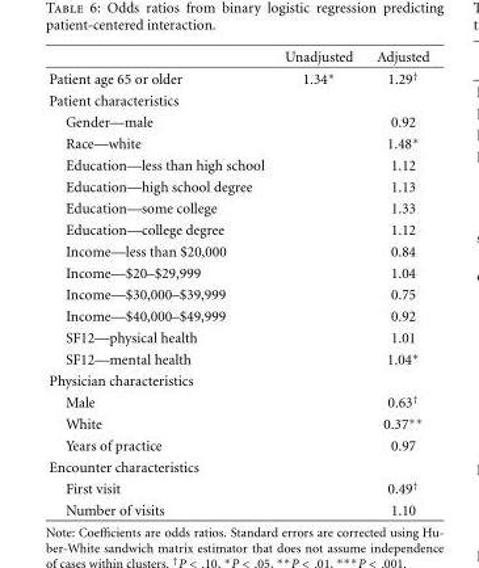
<table><thead><tr><td></td><td>Unadjusted</td><td>Adjusted</td></tr></thead><tbody><tr><td>Patient age 65 or older</td><td>1.34∗</td><td>1.29<sup>†</sup></td></tr><tr><td colspan="3">Patient characteristics</td></tr><tr><td>Gender—male</td><td></td><td>0.92</td></tr><tr><td>Race—white</td><td></td><td>1.48∗</td></tr><tr><td>Education—less than high school</td><td></td><td>1.12</td></tr><tr><td>Education—high school degree</td><td></td><td>1.13</td></tr><tr><td>Education—some college</td><td></td><td>1.33</td></tr><tr><td>Education—college degree</td><td></td><td>1.12</td></tr><tr><td>Income—less than $20,000</td><td></td><td>0.84</td></tr><tr><td>Income—$20–$29,999</td><td></td><td>1.04</td></tr><tr><td>Income—$30,000–$39,999</td><td></td><td>0.75</td></tr><tr><td>Income—$40,000–$49,999</td><td></td><td>0.92</td></tr><tr><td>SF12—physical health</td><td></td><td>1.01</td></tr><tr><td>SF12—mental health</td><td></td><td>1.04∗</td></tr><tr><td colspan="3">Physician characteristics</td></tr><tr><td>Male</td><td></td><td>0.63<sup>†</sup></td></tr><tr><td>White</td><td></td><td>0.37∗∗</td></tr><tr><td>Years of practice</td><td></td><td>0.97</td></tr><tr><td colspan="3">Encounter characteristics</td></tr><tr><td>First visit</td><td></td><td>0.49<sup>†</sup></td></tr><tr><td>Number of visits</td><td></td><td>1.10</td></tr></tbody></table>